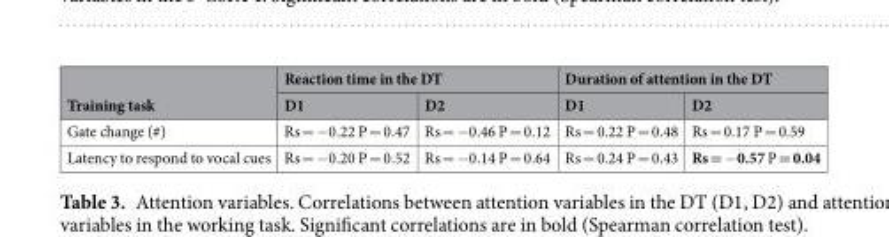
<table><thead><tr><td rowspan="2">Training task</td><td colspan="2">Reaction time in the DT</td><td colspan="2">Duration of attention in the DT</td></tr><tr><td>D1</td><td>D2</td><td>D1</td><td>D2</td></tr></thead><tbody><tr><td>Gate change (#)</td><td>Rs = −0.22 P = 0.47</td><td>Rs = −0.46 P = 0.12</td><td>Rs = 0.22 P = 0.48</td><td>Rs = 0.17 P = 0.59</td></tr><tr><td>Latency to respond to vocal cues</td><td>Rs = −0.20 P = 0.52</td><td>Rs = −0.14 P = 0.64</td><td>Rs = 0.24 P = 0.43</td><td>Rs = −0.57 P = 0.04</td></tr></tbody></table>